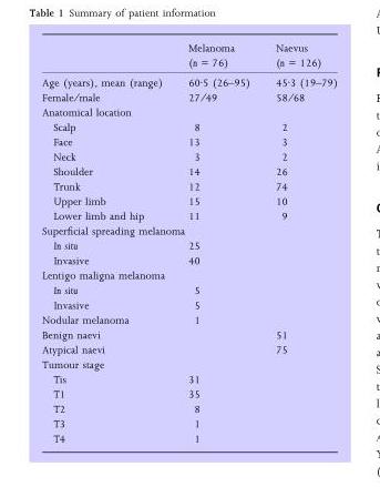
<table><thead><tr><td></td><td>Melanoma (n = 76)</td><td>Naevus (n = 126)</td></tr></thead><tbody><tr><td>Age (years), mean (range)</td><td>60Æ5 (26–95)</td><td>45Æ3 (19–79)</td></tr><tr><td>Female ⁄male</td><td>27 ⁄49</td><td>58 ⁄68</td></tr><tr><td colspan="3">Anatomical location</td></tr><tr><td>Scalp</td><td>8</td><td>2</td></tr><tr><td>Face</td><td>13</td><td>3</td></tr><tr><td>Neck</td><td>3</td><td>2</td></tr><tr><td>Shoulder</td><td>14</td><td>26</td></tr><tr><td>Trunk</td><td>12</td><td>74</td></tr><tr><td>Upper limb</td><td>15</td><td>10</td></tr><tr><td>Lower limb and hip</td><td>11</td><td>9</td></tr><tr><td colspan="3">Superficial spreading melanoma</td></tr><tr><td>In situ</td><td>25</td><td></td></tr><tr><td>Invasive</td><td>40</td><td></td></tr><tr><td colspan="3">Lentigo maligna melanoma</td></tr><tr><td>In situ</td><td>5</td><td></td></tr><tr><td>Invasive</td><td>5</td><td></td></tr><tr><td>Nodular melanoma</td><td>1</td><td></td></tr><tr><td>Benign naevi</td><td></td><td>51</td></tr><tr><td>Atypical naevi</td><td></td><td>75</td></tr><tr><td colspan="3">Tumour stage</td></tr><tr><td>Tis</td><td>31</td><td></td></tr><tr><td>T1</td><td>35</td><td></td></tr><tr><td>T2</td><td>8</td><td></td></tr><tr><td>T3</td><td>1</td><td></td></tr><tr><td>T4</td><td>1</td><td></td></tr></tbody></table>